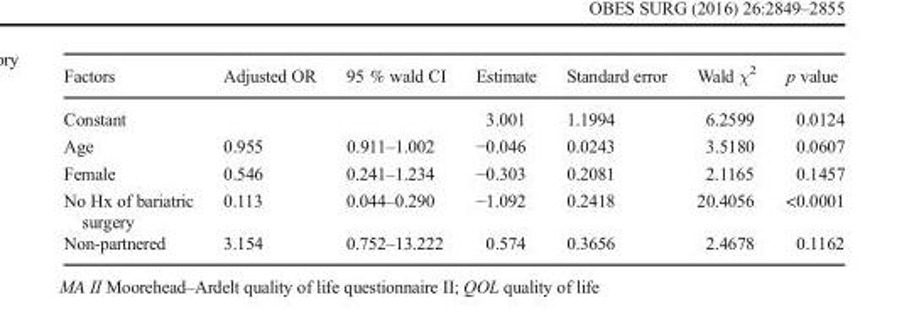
<table><thead><tr><td>Factors</td><td>Adjusted OR</td><td>95 % wald CI</td><td>Estimate</td><td>Standard error</td><td>Wald χ<sup>2</sup></td><td>p value</td></tr></thead><tbody><tr><td>Constant</td><td></td><td></td><td>3.001</td><td>1.1994</td><td>6.2599</td><td>0.0124</td></tr><tr><td>Age</td><td>0.955</td><td>0.911–1.002</td><td>−0.046</td><td>0.0243</td><td>3.5180</td><td>0.0607</td></tr><tr><td>Female</td><td>0.546</td><td>0.241–1.234</td><td>−0.303</td><td>0.2081</td><td>2.1165</td><td>0.1457</td></tr><tr><td>No Hx of bariatric surgery</td><td>0.113</td><td>0.044–0.290</td><td>−1.092</td><td>0.2418</td><td>20.4056</td><td>&lt;0.0001</td></tr><tr><td>Non-partnered</td><td>3.154</td><td>0.752–13.222</td><td>0.574</td><td>0.3656</td><td>2.4678</td><td>0.1162</td></tr></tbody></table>